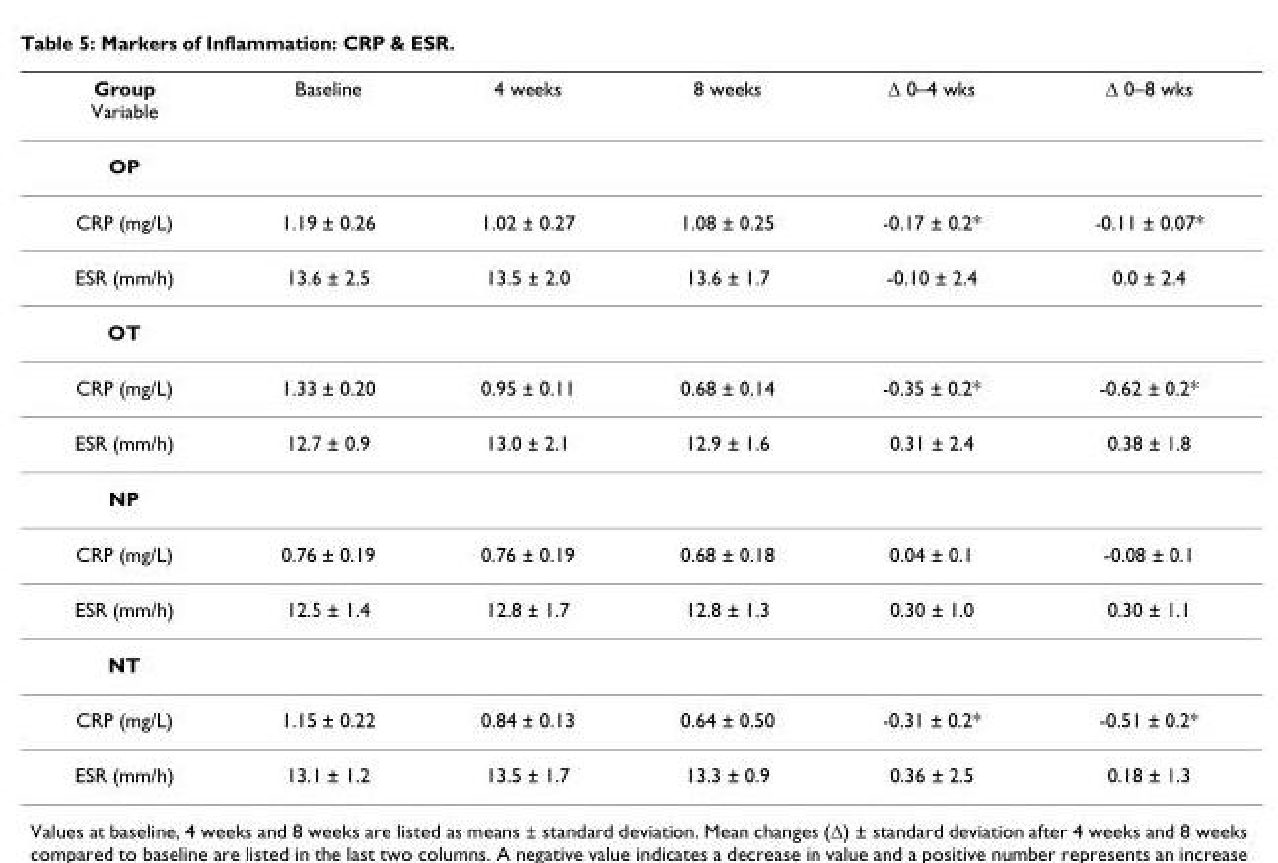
<table><thead><tr><td>Group Variable</td><td>Baseline</td><td>4 weeks</td><td>8 weeks</td><td>Δ 0–4 wks</td><td>Δ 0–8 wks</td></tr></thead><tbody><tr><td colspan="6">OP</td></tr><tr><td>CRP (mg/L)</td><td>1.19 ± 0.26</td><td>1.02 ± 0.27</td><td>1.08 ± 0.25</td><td>-0.17 ± 0.2*</td><td>-0.11 ± 0.07*</td></tr><tr><td>ESR (mm/h)</td><td>13.6 ± 2.5</td><td>13.5 ± 2.0</td><td>13.6 ± 1.7</td><td>-0.10 ± 2.4</td><td>0.0 ± 2.4</td></tr><tr><td colspan="6">OT</td></tr><tr><td>CRP (mg/L)</td><td>1.33 ± 0.20</td><td>0.95 ± 0.11</td><td>0.68 ± 0.14</td><td>-0.35 ± 0.2*</td><td>-0.62 ± 0.2*</td></tr><tr><td>ESR (mm/h)</td><td>12.7 ± 0.9</td><td>13.0 ± 2.1</td><td>12.9 ± 1.6</td><td>0.31 ± 2.4</td><td>0.38 ± 1.8</td></tr><tr><td colspan="6">NP</td></tr><tr><td>CRP (mg/L)</td><td>0.76 ± 0.19</td><td>0.76 ± 0.19</td><td>0.68 ± 0.18</td><td>0.04 ± 0.1</td><td>-0.08 ± 0.1</td></tr><tr><td>ESR (mm/h)</td><td>12.5 ± 1.4</td><td>12.8 ± 1.7</td><td>12.8 ± 1.3</td><td>0.30 ± 1.0</td><td>0.30 ± 1.1</td></tr><tr><td colspan="6">NT</td></tr><tr><td>CRP (mg/L)</td><td>1.15 ± 0.22</td><td>0.84 ± 0.13</td><td>0.64 ± 0.50</td><td>-0.31 ± 0.2*</td><td>-0.51 ± 0.2*</td></tr><tr><td>ESR (mm/h)</td><td>13.1 ± 1.2</td><td>13.5 ± 1.7</td><td>13.3 ± 0.9</td><td>0.36 ± 2.5</td><td>0.18 ± 1.3</td></tr></tbody></table>